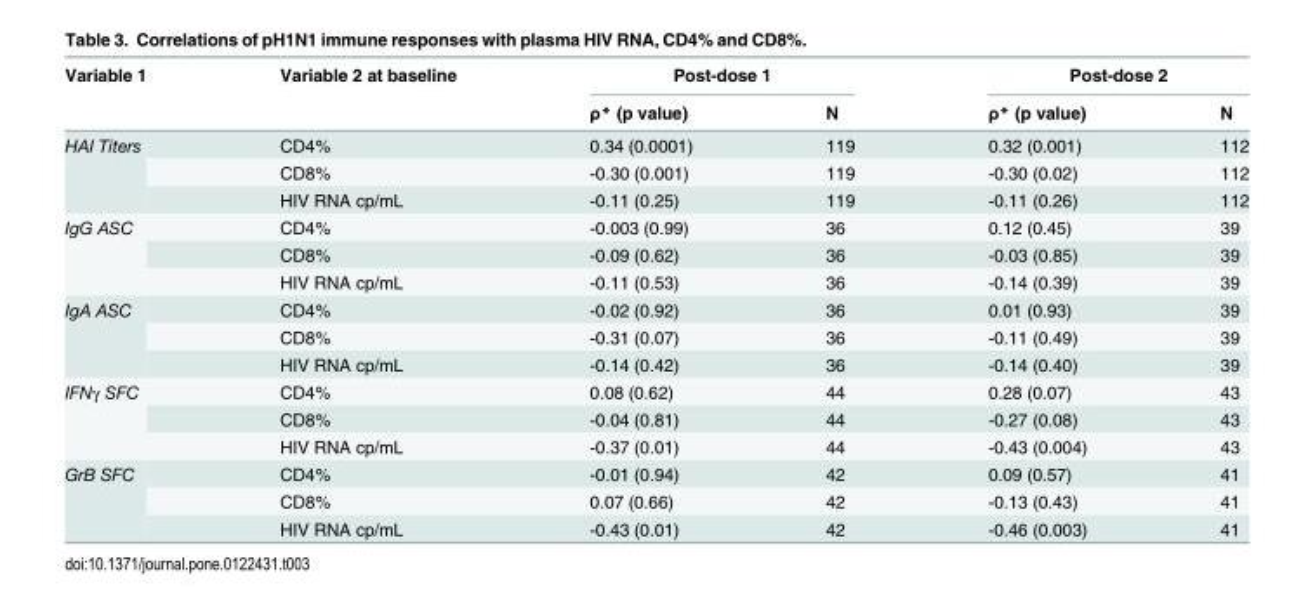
<table><thead><tr><td rowspan="2">Variable 1</td><td rowspan="2">Variable 2 at baseline</td><td colspan="2">Post-dose 1</td><td colspan="2">Post-dose 2</td></tr><tr><td>ρ* (p value)</td><td>N</td><td>ρ* (p value)</td><td>N</td></tr></thead><tbody><tr><td rowspan="3">HAI Titers</td><td>CD4%</td><td>0.34 (0.0001)</td><td>119</td><td>0.32 (0.001)</td><td>112</td></tr><tr><td>CD8%</td><td>-0.30 (0.001)</td><td>119</td><td>-0.30 (0.02)</td><td>112</td></tr><tr><td>HIV RNA cp/mL</td><td>-0.11 (0.25)</td><td>119</td><td>-0.11 (0.26)</td><td>112</td></tr><tr><td rowspan="3">IgG ASC</td><td>CD4%</td><td>-0.003 (0.99)</td><td>36</td><td>0.12 (0.45)</td><td>39</td></tr><tr><td>CD8%</td><td>-0.09 (0.62)</td><td>36</td><td>-0.03 (0.85)</td><td>39</td></tr><tr><td>HIV RNA cp/mL</td><td>-0.11 (0.53)</td><td>36</td><td>-0.14 (0.39)</td><td>39</td></tr><tr><td rowspan="3">IgA ASC</td><td>CD4%</td><td>-0.02 (0.92)</td><td>36</td><td>0.01 (0.93)</td><td>39</td></tr><tr><td>CD8%</td><td>-0.31 (0.07)</td><td>36</td><td>-0.11 (0.49)</td><td>39</td></tr><tr><td>HIV RNA cp/mL</td><td>-0.14 (0.42)</td><td>36</td><td>-0.14 (0.40)</td><td>39</td></tr><tr><td rowspan="3">IFNγ SFC</td><td>CD4%</td><td>0.08 (0.62)</td><td>44</td><td>0.28 (0.07)</td><td>43</td></tr><tr><td>CD8%</td><td>-0.04 (0.81)</td><td>44</td><td>-0.27 (0.08)</td><td>43</td></tr><tr><td>HIV RNA cp/mL</td><td>-0.37 (0.01)</td><td>44</td><td>-0.43 (0.004)</td><td>43</td></tr><tr><td rowspan="3">GrB SFC</td><td>CD4%</td><td>-0.01 (0.94)</td><td>42</td><td>0.09 (0.57)</td><td>41</td></tr><tr><td>CD8%</td><td>0.07 (0.66)</td><td>42</td><td>-0.13 (0.43)</td><td>41</td></tr><tr><td>HIV RNA cp/mL</td><td>-0.43 (0.01)</td><td>42</td><td>-0.46 (0.003)</td><td>41</td></tr></tbody></table>